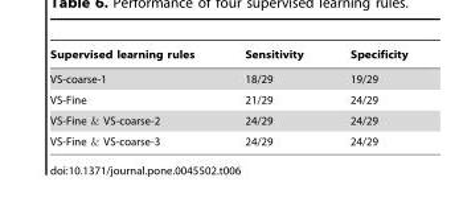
<table><thead><tr><td>Supervised learning rules</td><td>Sensitivity</td><td>Specificity</td></tr></thead><tbody><tr><td>VS-coarse-1</td><td>18/29</td><td>19/29</td></tr><tr><td>VS-Fine</td><td>21/29</td><td>24/29</td></tr><tr><td>VS-Fine &amp; VS-coarse-2</td><td>24/29</td><td>24/29</td></tr><tr><td>VS-Fine &amp; VS-coarse-3</td><td>24/29</td><td>24/29</td></tr></tbody></table>